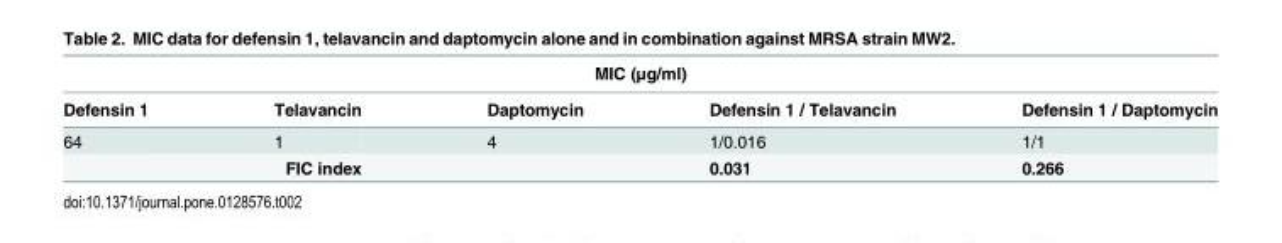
<table><thead><tr><td colspan="5">MIC (μg/ml)</td></tr><tr><td>Defensin 1</td><td>Telavancin</td><td>Daptomycin</td><td>Defensin 1 / Telavancin</td><td>Defensin 1 / Daptomycin</td></tr></thead><tbody><tr><td>64</td><td>1</td><td>4</td><td>1/0.016</td><td>1/1</td></tr><tr><td colspan="3">FIC index</td><td>0.031</td><td>0.266</td></tr></tbody></table>